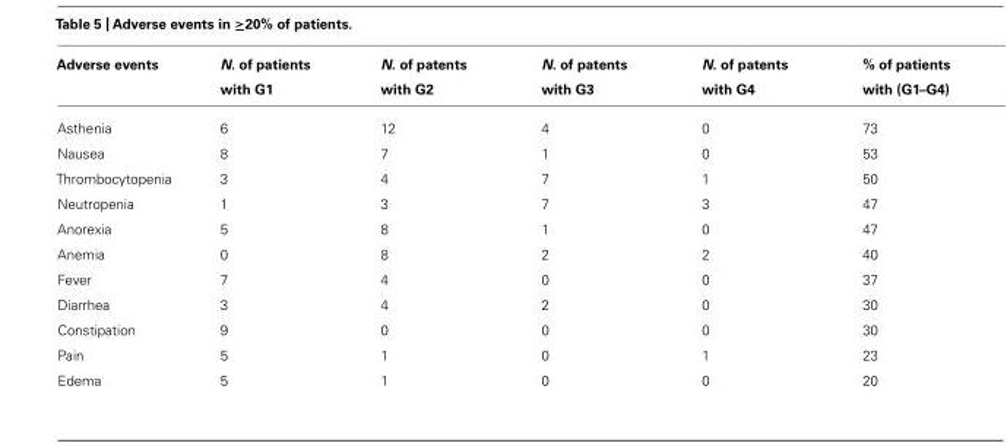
<table><thead><tr><td>Adverse events</td><td>N. of patients with G1</td><td>N. of patents with G2</td><td>N. of patents with G3</td><td>N. of patents with G4</td><td>% of patients with (G1–G4)</td></tr></thead><tbody><tr><td>Asthenia</td><td>6</td><td>12</td><td>4</td><td>0</td><td>73</td></tr><tr><td>Nausea</td><td>8</td><td>7</td><td>1</td><td>0</td><td>53</td></tr><tr><td>Thrombocytopenia</td><td>3</td><td>4</td><td>7</td><td>1</td><td>50</td></tr><tr><td>Neutropenia</td><td>1</td><td>3</td><td>7</td><td>3</td><td>47</td></tr><tr><td>Anorexia</td><td>5</td><td>8</td><td>1</td><td>0</td><td>47</td></tr><tr><td>Anemia</td><td>0</td><td>8</td><td>2</td><td>2</td><td>40</td></tr><tr><td>Fever</td><td>7</td><td>4</td><td>0</td><td>0</td><td>37</td></tr><tr><td>Diarrhea</td><td>3</td><td>4</td><td>2</td><td>0</td><td>30</td></tr><tr><td>Constipation</td><td>9</td><td>0</td><td>0</td><td>0</td><td>30</td></tr><tr><td>Pain</td><td>5</td><td>1</td><td>0</td><td>1</td><td>23</td></tr><tr><td>Edema</td><td>5</td><td>1</td><td>0</td><td>0</td><td>20</td></tr></tbody></table>